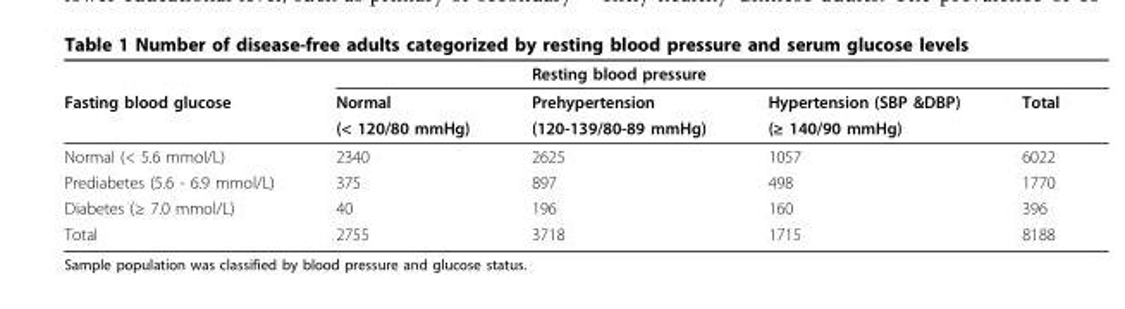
<table><thead><tr><td rowspan="3">Fasting blood glucose</td><td rowspan="3">Normal (&lt; 120/80 mmHg)</td><td rowspan="3">Resting blood pressure Prehypertension (120-139/80-89 mmHg)</td><td rowspan="3">Hypertension (SBP &amp;DBP) (≥ 140/90 mmHg)</td><td rowspan="3">Total</td></tr><tr></tr><tr></tr></thead><tbody><tr><td>Normal (&lt; 5.6 mmol/L)</td><td>2340</td><td>2625</td><td>1057</td><td>6022</td></tr><tr><td>Prediabetes (5.6 - 6.9 mmol/L)</td><td>375</td><td>897</td><td>498</td><td>1770</td></tr><tr><td>Diabetes (≥ 7.0 mmol/L)</td><td>40</td><td>196</td><td>160</td><td>396</td></tr><tr><td>Total</td><td>2755</td><td>3718</td><td>1715</td><td>8188</td></tr></tbody></table>